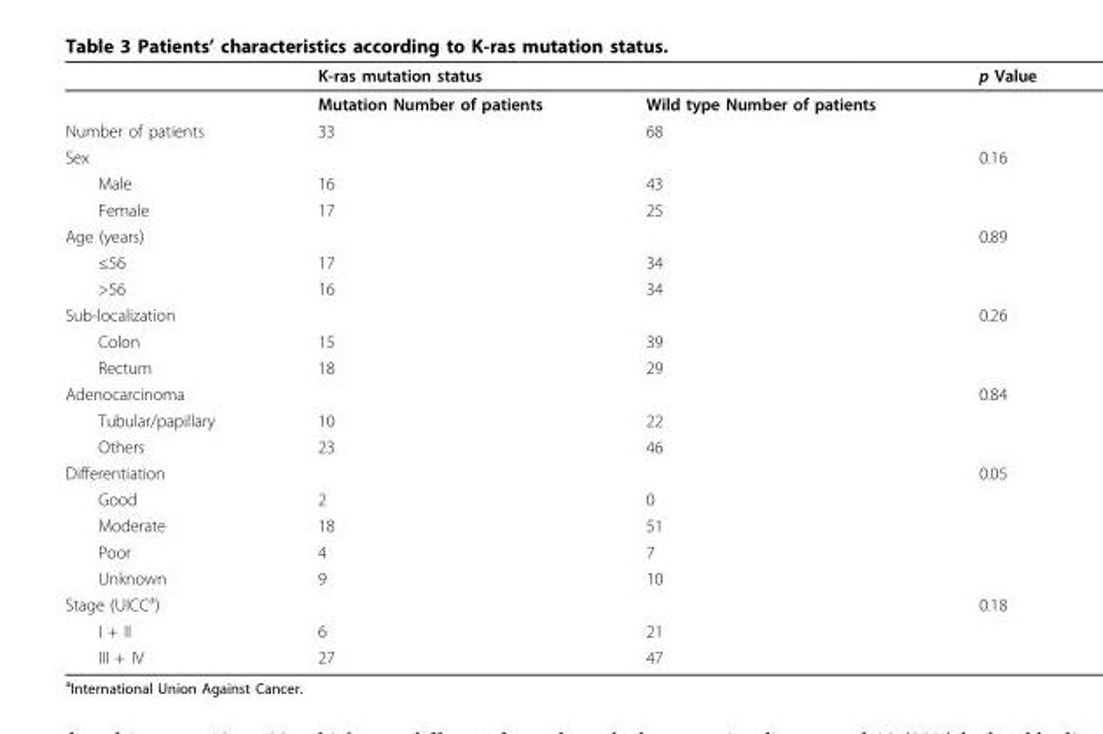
<table><thead><tr><td rowspan="2"></td><td colspan="2">K-ras mutation status</td><td rowspan="2">p Value</td></tr><tr><td>Mutation Number of patients</td><td>Wild type Number of patients</td></tr></thead><tbody><tr><td>Number of patients</td><td>33</td><td>68</td><td></td></tr><tr><td>Sex</td><td></td><td></td><td>0.16</td></tr><tr><td>Male</td><td>16</td><td>43</td><td></td></tr><tr><td>Female</td><td>17</td><td>25</td><td></td></tr><tr><td>Age (years)</td><td></td><td></td><td>0.89</td></tr><tr><td>≤56</td><td>17</td><td>34</td><td></td></tr><tr><td>&gt;56</td><td>16</td><td>34</td><td></td></tr><tr><td>Sub-localization</td><td></td><td></td><td>0.26</td></tr><tr><td>Colon</td><td>15</td><td>39</td><td></td></tr><tr><td>Rectum</td><td>18</td><td>29</td><td></td></tr><tr><td>Adenocarcinoma</td><td></td><td></td><td>0.84</td></tr><tr><td>Tubular/papillary</td><td>10</td><td>22</td><td></td></tr><tr><td>Others</td><td>23</td><td>46</td><td></td></tr><tr><td>Differentiation</td><td></td><td></td><td>0.05</td></tr><tr><td>Good</td><td>2</td><td>0</td><td></td></tr><tr><td>Moderate</td><td>18</td><td>51</td><td></td></tr><tr><td>Poor</td><td>4</td><td>7</td><td></td></tr><tr><td>Unknown</td><td>9</td><td>10</td><td></td></tr><tr><td>Stage (UICC<sup>a</sup>)</td><td></td><td></td><td>0.18</td></tr><tr><td>I + II</td><td>6</td><td>21</td><td></td></tr><tr><td>III + IV</td><td>27</td><td>47</td><td></td></tr></tbody></table>